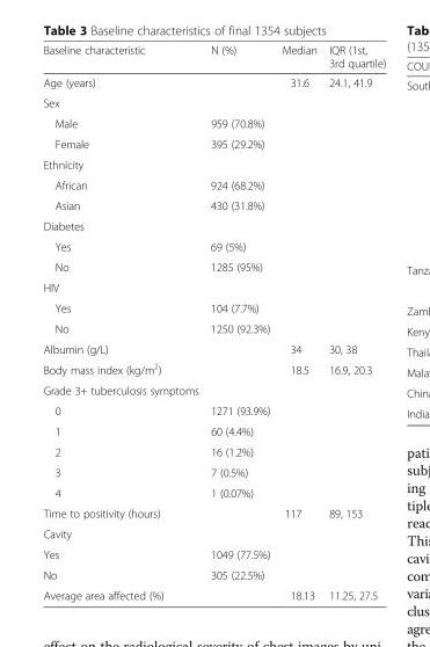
<table><thead><tr><td>Baseline characteristic</td><td>N (%)</td><td>Median</td><td>IQR (1st, 3rd quartile)</td></tr></thead><tbody><tr><td>Age (years)</td><td></td><td>31.6</td><td>24.1, 41.9</td></tr><tr><td colspan="4">Sex</td></tr><tr><td>Male</td><td>959 (70.8%)</td><td rowspan="2"></td><td rowspan="2"></td></tr><tr><td>Female</td><td>395 (29.2%)</td></tr><tr><td colspan="4">Ethnicity</td></tr><tr><td>African</td><td>924 (68.2%)</td><td rowspan="2"></td><td rowspan="2"></td></tr><tr><td>Asian</td><td>430 (31.8%)</td></tr><tr><td colspan="4">Diabetes</td></tr><tr><td>Yes</td><td>69 (5%)</td><td rowspan="2"></td><td rowspan="2"></td></tr><tr><td>No</td><td>1285 (95%)</td></tr><tr><td colspan="4">HIV</td></tr><tr><td>Yes</td><td>104 (7.7%)</td><td rowspan="2"></td><td rowspan="2"></td></tr><tr><td>No</td><td>1250 (92.3%)</td></tr><tr><td>Albumin (g/L)</td><td></td><td>34</td><td>30, 38</td></tr><tr><td>Body mass index (kg/m<sup>2</sup>)</td><td></td><td>18.5</td><td>16.9, 20.3</td></tr><tr><td colspan="4">Grade 3+ tuberculosis symptoms</td></tr><tr><td>0</td><td>1271 (93.9%)</td><td rowspan="5"></td><td rowspan="5"></td></tr><tr><td>1</td><td>60 (4.4%)</td></tr><tr><td>2</td><td>16 (1.2%)</td></tr><tr><td>3</td><td>7 (0.5%)</td></tr><tr><td>4</td><td>1 (0.07%)</td></tr><tr><td>Time to positivity (hours)</td><td></td><td>117</td><td>89, 153</td></tr><tr><td colspan="2">Cavity</td><td rowspan="3"></td><td rowspan="3"></td></tr><tr><td>Yes</td><td>1049 (77.5%)</td></tr><tr><td>No</td><td>305 (22.5%)</td></tr><tr><td>Average area affected (%)</td><td></td><td>18.13</td><td>11.25, 27.5</td></tr></tbody></table>